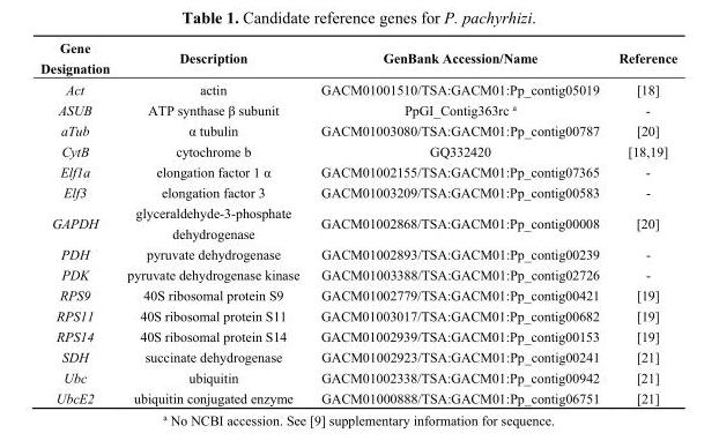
<table><thead><tr><td>Gene Designation</td><td>Description</td><td>GenBank Accession/Name</td><td>Reference</td></tr></thead><tbody><tr><td>Act</td><td>actin</td><td>GACM01001510/TSA:GACM01:Pp_contig05019</td><td>[18]</td></tr><tr><td>ASUB</td><td>ATP synthase β subunit</td><td>PpGI_Contig363rc <sup>a</sup></td><td>-</td></tr><tr><td>aTub</td><td>α tubulin</td><td>GACM01003080/TSA:GACM01:Pp_contig00787</td><td>[20]</td></tr><tr><td>CytB</td><td>cytochrome b</td><td>GQ332420</td><td>[18,19]</td></tr><tr><td>Elf1a</td><td>elongation factor 1 α</td><td>GACM01002155/TSA:GACM01:Pp_contig07365</td><td>-</td></tr><tr><td>Elf3</td><td>elongation factor 3</td><td>GACM01003209/TSA:GACM01:Pp_contig00583</td><td>-</td></tr><tr><td>GAPDH</td><td>glyceraldehyde-3-phosphate dehydrogenase</td><td>GACM01002868/TSA:GACM01:Pp_contig00008</td><td>[20]</td></tr><tr><td>PDH</td><td>pyruvate dehydrogenase</td><td>GACM01002893/TSA:GACM01:Pp_contig00239</td><td>-</td></tr><tr><td>PDK</td><td>pyruvate dehydrogenase kinase</td><td>GACM01003388/TSA:GACM01:Pp_contig02726</td><td>-</td></tr><tr><td>RPS9</td><td>40S ribosomal protein S9</td><td>GACM01002779/TSA:GACM01:Pp_contig00421</td><td>[19]</td></tr><tr><td>RPS11</td><td>40S ribosomal protein S11</td><td>GACM01003017/TSA:GACM01:Pp_contig00682</td><td>[19]</td></tr><tr><td>RPS14</td><td>40S ribosomal protein S14</td><td>GACM01002939/TSA:GACM01:Pp_contig00153</td><td>[19]</td></tr><tr><td>SDH</td><td>succinate dehydrogenase</td><td>GACM01002923/TSA:GACM01:Pp_contig00241</td><td>[21]</td></tr><tr><td>Ubc</td><td>ubiquitin</td><td>GACM01002338/TSA:GACM01:Pp_contig00942</td><td>[21]</td></tr><tr><td>UbcE2</td><td>ubiquitin conjugated enzyme</td><td>GACM01000888/TSA:GACM01:Pp_contig06751</td><td>[21]</td></tr></tbody></table>